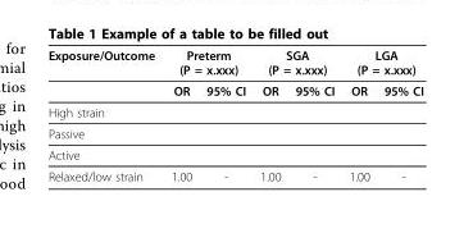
<table><thead><tr><td rowspan="2">Exposure/Outcome</td><td colspan="2">Preterm (P = x.xxx)</td><td colspan="2">SGA (P = x.xxx)</td><td colspan="2">LGA (P = x.xxx)</td></tr><tr><td>OR</td><td>95% CI</td><td>OR</td><td>95% CI</td><td>OR</td><td>95% CI</td></tr></thead><tbody><tr><td colspan="7">High strain</td></tr><tr><td colspan="7">Passive</td></tr><tr><td colspan="7">Active</td></tr><tr><td>Relaxed/low strain</td><td>1.00</td><td>-</td><td>1.00</td><td>-</td><td>1.00</td><td>-</td></tr></tbody></table>